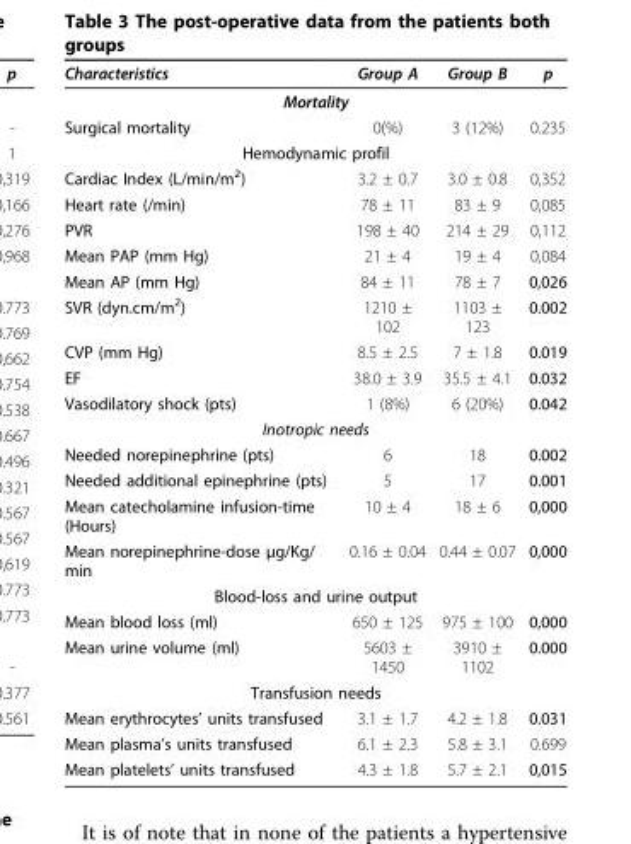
<table><thead><tr><td>Characteristics</td><td>Group A</td><td>Group B</td><td>p</td></tr></thead><tbody><tr><td colspan="4">Mortality</td></tr><tr><td>Surgical mortality</td><td>0(%)</td><td>3 (12%)</td><td>0.235</td></tr><tr><td colspan="4">Hemodynamic profil</td></tr><tr><td>Cardiac Index (L/min/m<sup>2</sup>)</td><td>3.2 ± 0.7</td><td>3.0 ± 0.8</td><td>0,352</td></tr><tr><td>Heart rate (/min)</td><td>78 ± 11</td><td>83 ± 9</td><td>0,085</td></tr><tr><td>PVR</td><td>198 ± 40</td><td>214 ± 29</td><td>0,112</td></tr><tr><td>Mean PAP (mm Hg)</td><td>21 ± 4</td><td>19 ± 4</td><td>0,084</td></tr><tr><td>Mean AP (mm Hg)</td><td>84 ± 11</td><td>78 ± 7</td><td>0,026</td></tr><tr><td>SVR (dyn.cm/m<sup>2</sup>)</td><td>1210 ± 102</td><td>1103 ± 123</td><td>0.002</td></tr><tr><td>CVP (mm Hg)</td><td>8.5 ± 2.5</td><td>7 ± 1.8</td><td>0.019</td></tr><tr><td>EF</td><td>38.0 ± 3.9</td><td>35.5 ± 4.1</td><td>0.032</td></tr><tr><td>Vasodilatory shock (pts)</td><td>1 (8%)</td><td>6 (20%)</td><td>0.042</td></tr><tr><td colspan="4">Inotropic needs</td></tr><tr><td>Needed norepinephrine (pts)</td><td>6</td><td>18</td><td>0.002</td></tr><tr><td>Needed additional epinephrine (pts)</td><td>5</td><td>17</td><td>0.001</td></tr><tr><td>Mean catecholamine infusion-time (Hours)</td><td>10 ± 4</td><td>18 ± 6</td><td>0,000</td></tr><tr><td>Mean norepinephrine-dose μg/Kg/ min</td><td>0.16 ± 0.04</td><td>0.44 ± 0.07</td><td>0,000</td></tr><tr><td colspan="4">Blood-loss and urine output</td></tr><tr><td>Mean blood loss (ml)</td><td>650 ± 125</td><td>975 ± 100</td><td>0,000</td></tr><tr><td>Mean urine volume (ml)</td><td>5603 ± 1450</td><td>3910 ± 1102</td><td>0.000</td></tr><tr><td colspan="4">Transfusion needs</td></tr><tr><td>Mean erythrocytes’ units transfused</td><td>3.1 ± 1.7</td><td>4.2 ± 1.8</td><td>0.031</td></tr><tr><td>Mean plasma’s units transfused</td><td>6.1 ± 2.3</td><td>5.8 ± 3.1</td><td>0.699</td></tr><tr><td>Mean platelets’ units transfused</td><td>4.3 ± 1.8</td><td>5.7 ± 2.1</td><td>0,015</td></tr></tbody></table>